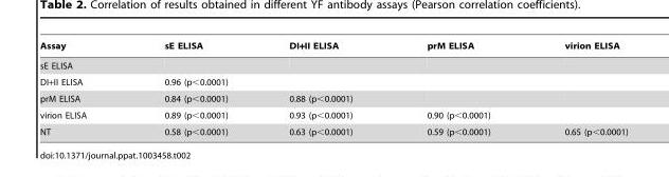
<table><thead><tr><td>Assay</td><td>sE ELISA</td><td>DI+II ELISA</td><td>prM ELISA</td><td>virion ELISA</td></tr></thead><tbody><tr><td colspan="5">sE ELISA</td></tr><tr><td>DI+II ELISA</td><td>0.96 (p&lt;0.0001)</td><td></td><td></td><td></td></tr><tr><td>prM ELISA</td><td>0.84 (p&lt;0.0001)</td><td>0.88 (p&lt;0.0001)</td><td></td><td></td></tr><tr><td>virion ELISA</td><td>0.89 (p&lt;0.0001)</td><td>0.93 (p&lt;0.0001)</td><td>0.90 (p&lt;0.0001)</td><td></td></tr><tr><td>NT</td><td>0.58 (p&lt;0.0001)</td><td>0.63 (p&lt;0.0001)</td><td>0.59 (p&lt;0.0001)</td><td>0.65 (p&lt;0.0001)</td></tr></tbody></table>